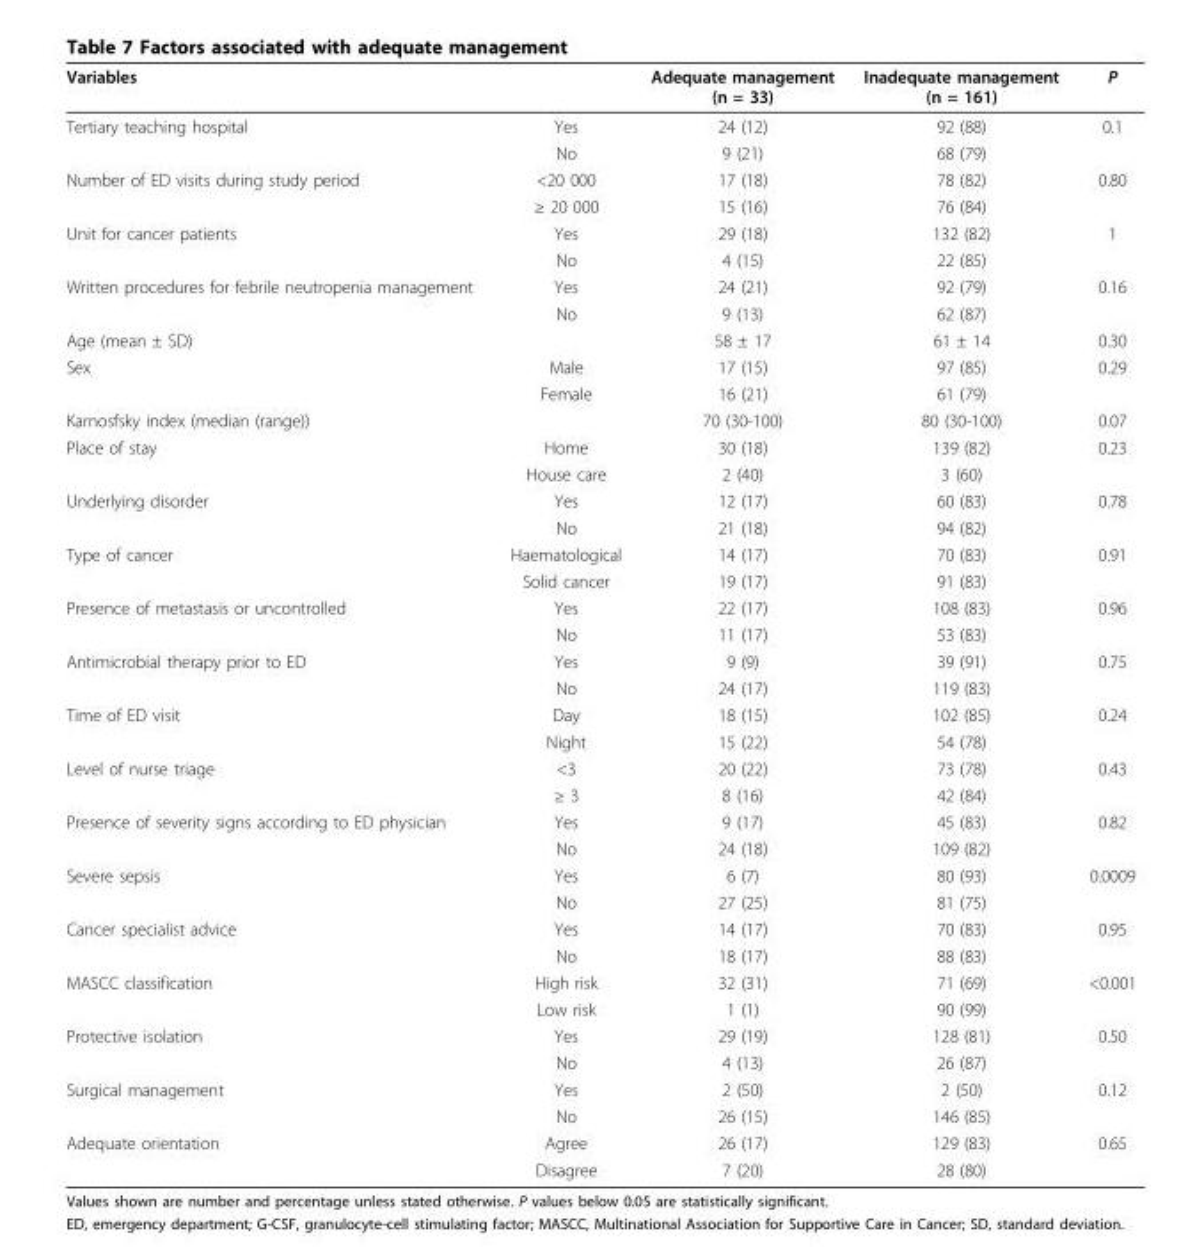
<table><thead><tr><td>Variables</td><td></td><td>Adequate management (n = 33)</td><td>Inadequate management (n = 161)</td><td>P</td></tr></thead><tbody><tr><td rowspan="2">Tertiary teaching hospital</td><td>Yes</td><td>24 (12)</td><td>92 (88)</td><td>0.1</td></tr><tr><td>No</td><td>9 (21)</td><td>68 (79)</td><td></td></tr><tr><td rowspan="2">Number of ED visits during study period</td><td>&lt;20 000</td><td>17 (18)</td><td>78 (82)</td><td>0.80</td></tr><tr><td>≥ 20 000</td><td>15 (16)</td><td>76 (84)</td><td></td></tr><tr><td rowspan="2">Unit for cancer patients</td><td>Yes</td><td>29 (18)</td><td>132 (82)</td><td>1</td></tr><tr><td>No</td><td>4 (15)</td><td>22 (85)</td><td></td></tr><tr><td rowspan="2">Written procedures for febrile neutropenia management</td><td>Yes</td><td>24 (21)</td><td>92 (79)</td><td>0.16</td></tr><tr><td>No</td><td>9 (13)</td><td>62 (87)</td><td></td></tr><tr><td>Age (mean ± SD)</td><td></td><td>58 ± 17</td><td>61 ± 14</td><td>0.30</td></tr><tr><td rowspan="2">Sex</td><td>Male</td><td>17 (15)</td><td>97 (85)</td><td>0.29</td></tr><tr><td>Female</td><td>16 (21)</td><td>61 (79)</td><td></td></tr><tr><td>Karnosfsky index (median (range))</td><td></td><td>70 (30-100)</td><td>80 (30-100)</td><td>0.07</td></tr><tr><td rowspan="2">Place of stay</td><td>Home</td><td>30 (18)</td><td>139 (82)</td><td>0.23</td></tr><tr><td>House care</td><td>2 (40)</td><td>3 (60)</td><td></td></tr><tr><td rowspan="2">Underlying disorder</td><td>Yes</td><td>12 (17)</td><td>60 (83)</td><td>0.78</td></tr><tr><td>No</td><td>21 (18)</td><td>94 (82)</td><td></td></tr><tr><td rowspan="2">Type of cancer</td><td>Haematological</td><td>14 (17)</td><td>70 (83)</td><td>0.91</td></tr><tr><td>Solid cancer</td><td>19 (17)</td><td>91 (83)</td><td></td></tr><tr><td rowspan="2">Presence of metastasis or uncontrolled</td><td>Yes</td><td>22 (17)</td><td>108 (83)</td><td>0.96</td></tr><tr><td>No</td><td>11 (17)</td><td>53 (83)</td><td></td></tr><tr><td rowspan="2">Antimicrobial therapy prior to ED</td><td>Yes</td><td>9 (9)</td><td>39 (91)</td><td>0.75</td></tr><tr><td>No</td><td>24 (17)</td><td>119 (83)</td><td></td></tr><tr><td rowspan="2">Time of ED visit</td><td>Day</td><td>18 (15)</td><td>102 (85)</td><td>0.24</td></tr><tr><td>Night</td><td>15 (22)</td><td>54 (78)</td><td></td></tr><tr><td rowspan="2">Level of nurse triage</td><td>&lt;3</td><td>20 (22)</td><td>73 (78)</td><td>0.43</td></tr><tr><td>≥ 3</td><td>8 (16)</td><td>42 (84)</td><td></td></tr><tr><td rowspan="2">Presence of severity signs according to ED physician</td><td>Yes</td><td>9 (17)</td><td>45 (83)</td><td>0.82</td></tr><tr><td>No</td><td>24 (18)</td><td>109 (82)</td><td></td></tr><tr><td rowspan="2">Severe sepsis</td><td>Yes</td><td>6 (7)</td><td>80 (93)</td><td>0.0009</td></tr><tr><td>No</td><td>27 (25)</td><td>81 (75)</td><td></td></tr><tr><td rowspan="2">Cancer specialist advice</td><td>Yes</td><td>14 (17)</td><td>70 (83)</td><td>0.95</td></tr><tr><td>No</td><td>18 (17)</td><td>88 (83)</td><td></td></tr><tr><td rowspan="2">MASCC classification</td><td>High risk</td><td>32 (31)</td><td>71 (69)</td><td>&lt;0.001</td></tr><tr><td>Low risk</td><td>1 (1)</td><td>90 (99)</td><td></td></tr><tr><td rowspan="2">Protective isolation</td><td>Yes</td><td>29 (19)</td><td>128 (81)</td><td>0.50</td></tr><tr><td>No</td><td>4 (13)</td><td>26 (87)</td><td></td></tr><tr><td rowspan="2">Surgical management</td><td>Yes</td><td>2 (50)</td><td>2 (50)</td><td>0.12</td></tr><tr><td>No</td><td>26 (15)</td><td>146 (85)</td><td></td></tr><tr><td rowspan="2">Adequate orientation</td><td>Agree</td><td>26 (17)</td><td>129 (83)</td><td>0.65</td></tr><tr><td>Disagree</td><td>7 (20)</td><td>28 (80)</td><td></td></tr></tbody></table>